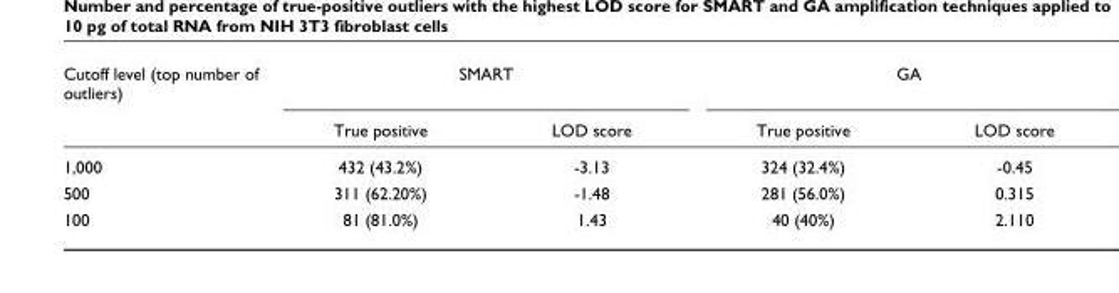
<table><thead><tr><td rowspan="2">Cutoff level (top number of outliers)</td><td colspan="2">SMART</td><td colspan="2">GA</td></tr><tr><td>True positive</td><td>LOD score</td><td>True positive</td><td>LOD score</td></tr></thead><tbody><tr><td>1,000</td><td>432 (43.2%)</td><td>-3.13</td><td>324 (32.4%)</td><td>-0.45</td></tr><tr><td>500</td><td>311 (62.20%)</td><td>-1.48</td><td>281 (56.0%)</td><td>0.315</td></tr><tr><td>100</td><td>81 (81.0%)</td><td>1.43</td><td>40 (40%)</td><td>2.110</td></tr></tbody></table>